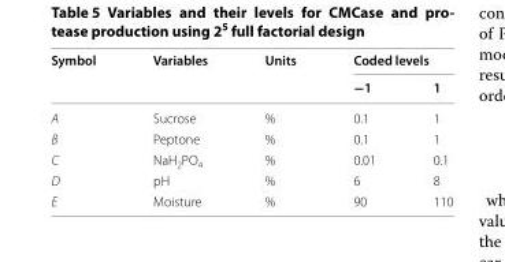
<table><thead><tr><td rowspan="2">Symbol</td><td rowspan="2">Variables</td><td rowspan="2">Units</td><td colspan="2">Coded levels</td></tr><tr><td>−1</td><td>1</td></tr></thead><tbody><tr><td>A</td><td>Sucrose</td><td>%</td><td>0.1</td><td>1</td></tr><tr><td>B</td><td>Peptone</td><td>%</td><td>0.1</td><td>1</td></tr><tr><td>C</td><td>NaH<sub>2</sub>PO<sub>4</sub></td><td>%</td><td>0.01</td><td>0.1</td></tr><tr><td>D</td><td>pH</td><td>%</td><td>6</td><td>8</td></tr><tr><td>E</td><td>Moisture</td><td>%</td><td>90</td><td>110</td></tr></tbody></table>